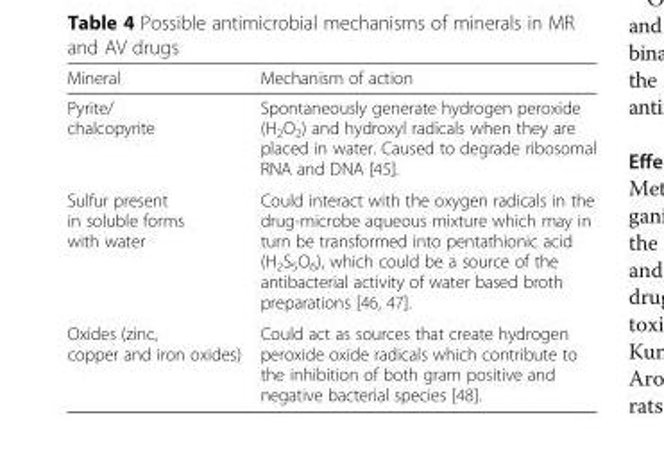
<table><thead><tr><td>Mineral</td><td>Mechanism of action</td></tr></thead><tbody><tr><td>Pyrite/ chalcopyrite</td><td>Spontaneously generate hydrogen peroxide (H<sub>2</sub>O<sub>2</sub>) and hydroxyl radicals when they are placed in water. Caused to degrade ribosomal RNA and DNA [45].</td></tr><tr><td>Sulfur present in soluble forms with water</td><td>Could interact with the oxygen radicals in the drug-microbe aqueous mixture which may in turn be transformed into pentathionic acid (H<sub>2</sub>S<sub>5</sub>O<sub>6</sub>), which could be a source of the antibacterial activity of water based broth preparations [46, 47].</td></tr><tr><td>Oxides (zinc, copper and iron oxides)</td><td>Could act as sources that create hydrogen peroxide oxide radicals which contribute to the inhibition of both gram positive and negative bacterial species [48].</td></tr></tbody></table>